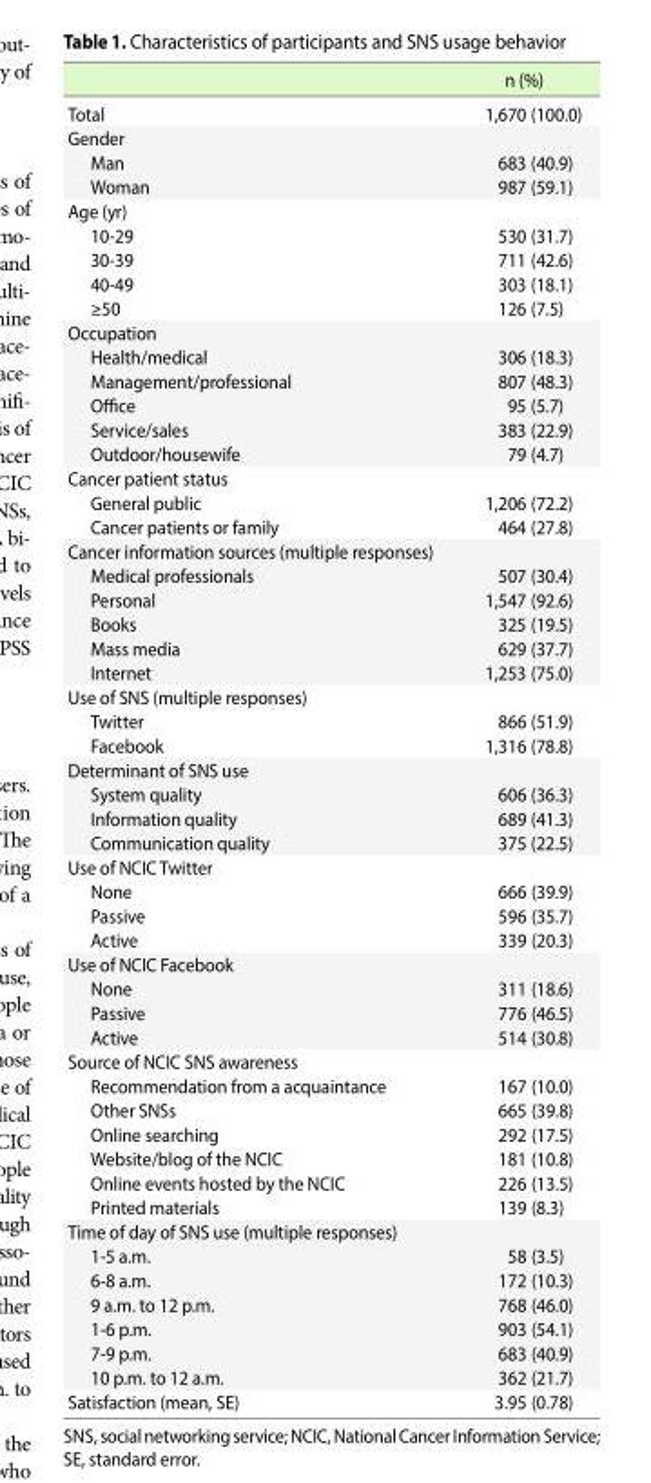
<table><thead><tr><td></td><td>n (%)</td></tr></thead><tbody><tr><td>Total</td><td>1,670 (100.0)</td></tr><tr><td colspan="2">Gender</td></tr><tr><td>Man</td><td>683 (40.9)</td></tr><tr><td>Woman</td><td>987 (59.1)</td></tr><tr><td colspan="2">Age (yr)</td></tr><tr><td>10-29</td><td>530 (31.7)</td></tr><tr><td>30-39</td><td>711 (42.6)</td></tr><tr><td>40-49</td><td>303 (18.1)</td></tr><tr><td>≥50</td><td>126 (7.5)</td></tr><tr><td colspan="2">Occupation</td></tr><tr><td>Health/medical</td><td>306 (18.3)</td></tr><tr><td>Management/professional</td><td>807 (48.3)</td></tr><tr><td>Office</td><td>95 (5.7)</td></tr><tr><td>Service/sales</td><td>383 (22.9)</td></tr><tr><td>Outdoor/housewife</td><td>79 (4.7)</td></tr><tr><td colspan="2">Cancer patient status</td></tr><tr><td>General public</td><td>1,206 (72.2)</td></tr><tr><td>Cancer patients or family</td><td>464 (27.8)</td></tr><tr><td colspan="2">Cancer information sources (multiple responses)</td></tr><tr><td>Medical professionals</td><td>507 (30.4)</td></tr><tr><td>Personal</td><td>1,547 (92.6)</td></tr><tr><td>Books</td><td>325 (19.5)</td></tr><tr><td>Mass media</td><td>629 (37.7)</td></tr><tr><td>Internet</td><td>1,253 (75.0)</td></tr><tr><td colspan="2">Use of SNS (multiple responses)</td></tr><tr><td>Twitter</td><td>866 (51.9)</td></tr><tr><td>Facebook</td><td>1,316 (78.8)</td></tr><tr><td colspan="2">Determinant of SNS use</td></tr><tr><td>System quality</td><td>606 (36.3)</td></tr><tr><td>Information quality</td><td>689 (41.3)</td></tr><tr><td>Communication quality</td><td>375 (22.5)</td></tr><tr><td colspan="2">Use of NCIC Twitter</td></tr><tr><td>None</td><td>666 (39.9)</td></tr><tr><td>Passive</td><td>596 (35.7)</td></tr><tr><td>Active</td><td>339 (20.3)</td></tr><tr><td colspan="2">Use of NCIC Facebook</td></tr><tr><td>None</td><td>311 (18.6)</td></tr><tr><td>Passive</td><td>776 (46.5)</td></tr><tr><td>Active</td><td>514 (30.8)</td></tr><tr><td colspan="2">Source of NCIC SNS awareness</td></tr><tr><td>Recommendation from a acquaintance</td><td>167 (10.0)</td></tr><tr><td>Other SNSs</td><td>665 (39.8)</td></tr><tr><td>Online searching</td><td>292 (17.5)</td></tr><tr><td>Website/blog of the NCIC</td><td>181 (10.8)</td></tr><tr><td>Online events hosted by the NCIC</td><td>226 (13.5)</td></tr><tr><td>Printed materials</td><td>139 (8.3)</td></tr><tr><td colspan="2">Time of day of SNS use (multiple responses)</td></tr><tr><td>1-5 a.m.</td><td>58 (3.5)</td></tr><tr><td>6-8 a.m.</td><td>172 (10.3)</td></tr><tr><td>9 a.m. to 12 p.m.</td><td>768 (46.0)</td></tr><tr><td>1-6 p.m.</td><td>903 (54.1)</td></tr><tr><td>7-9 p.m.</td><td>683 (40.9)</td></tr><tr><td>10 p.m. to 12 a.m.</td><td>362 (21.7)</td></tr><tr><td>Satisfaction (mean, SE)</td><td>3.95 (0.78)</td></tr></tbody></table>